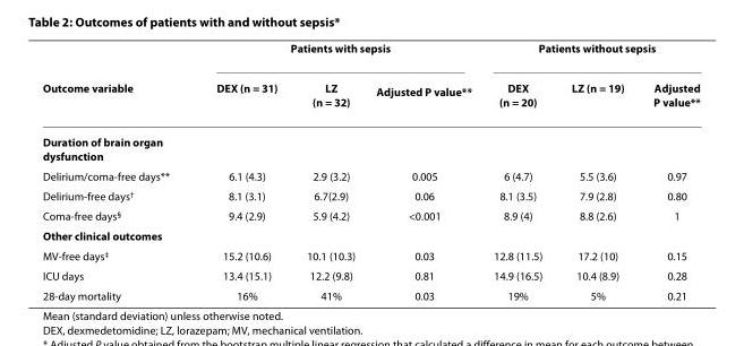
<table><thead><tr><td rowspan="2">Outcome variable</td><td colspan="3">Patients with sepsis</td><td colspan="3">Patients without sepsis</td></tr><tr><td>DEX (n = 31)</td><td>LZ (n = 32)</td><td>Adjusted P value**</td><td>DEX (n = 20)</td><td>LZ (n = 19)</td><td>Adjusted P value**</td></tr></thead><tbody><tr><td colspan="7">Duration of brain organ dysfunction</td></tr><tr><td>Delirium/coma-free days**</td><td>6.1 (4.3)</td><td>2.9 (3.2)</td><td>0.005</td><td>6 (4.7)</td><td>5.5 (3.6)</td><td>0.97</td></tr><tr><td>Delirium-free days<sup>†</sup></td><td>8.1 (3.1)</td><td>6.7(2.9)</td><td>0.06</td><td>8.1 (3.5)</td><td>7.9 (2.8)</td><td>0.80</td></tr><tr><td>Coma-free days§</td><td>9.4 (2.9)</td><td>5.9 (4.2)</td><td>&lt;0.001</td><td>8.9 (4)</td><td>8.8 (2.6)</td><td>1</td></tr><tr><td colspan="7">Other clinical outcomes</td></tr><tr><td>MV-free days<sup>‡</sup></td><td>15.2 (10.6)</td><td>10.1 (10.3)</td><td>0.03</td><td>12.8 (11.5)</td><td>17.2 (10)</td><td>0.15</td></tr><tr><td>ICU days</td><td>13.4 (15.1)</td><td>12.2 (9.8)</td><td>0.81</td><td>14.9 (16.5)</td><td>10.4 (8.9)</td><td>0.28</td></tr><tr><td>28-day mortality</td><td>16%</td><td>41%</td><td>0.03</td><td>19%</td><td>5%</td><td>0.21</td></tr></tbody></table>